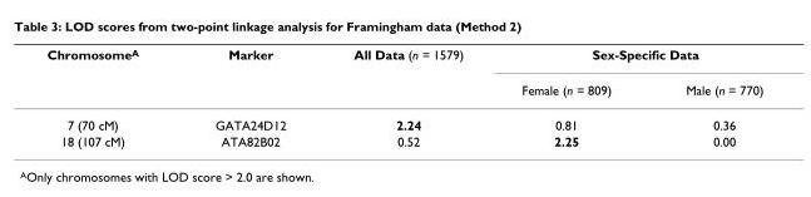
<table><thead><tr><td rowspan="2">ChromosomeA</td><td rowspan="2">Marker</td><td rowspan="2">All Data (n = 1579)</td><td colspan="2">Sex-Specific Data</td></tr><tr><td>Female (n = 809)</td><td>Male (n = 770)</td></tr></thead><tbody><tr><td>7 (70 cM)</td><td>GATA24D12</td><td>2.24</td><td>0.81</td><td>0.36</td></tr><tr><td>18 (107 cM)</td><td>ATA82B02</td><td>0.52</td><td>2.25</td><td>0.00</td></tr></tbody></table>